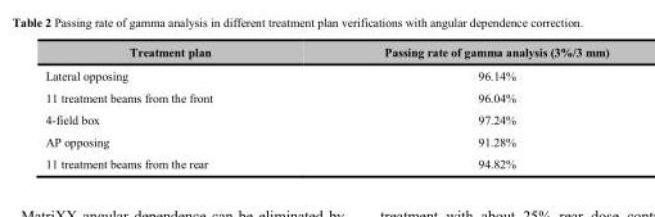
<table><thead><tr><td>Treatment plan</td><td>Passing rate of gamma analysis (3%/3 mm)</td></tr></thead><tbody><tr><td>Lateral opposing</td><td>96.14%</td></tr><tr><td>11 treatment beams from the front</td><td>96.04%</td></tr><tr><td>4-field box</td><td>97.24%</td></tr><tr><td>AP opposing</td><td>91.28%</td></tr><tr><td>11 treatment beams from the rear</td><td>94.82%</td></tr></tbody></table>